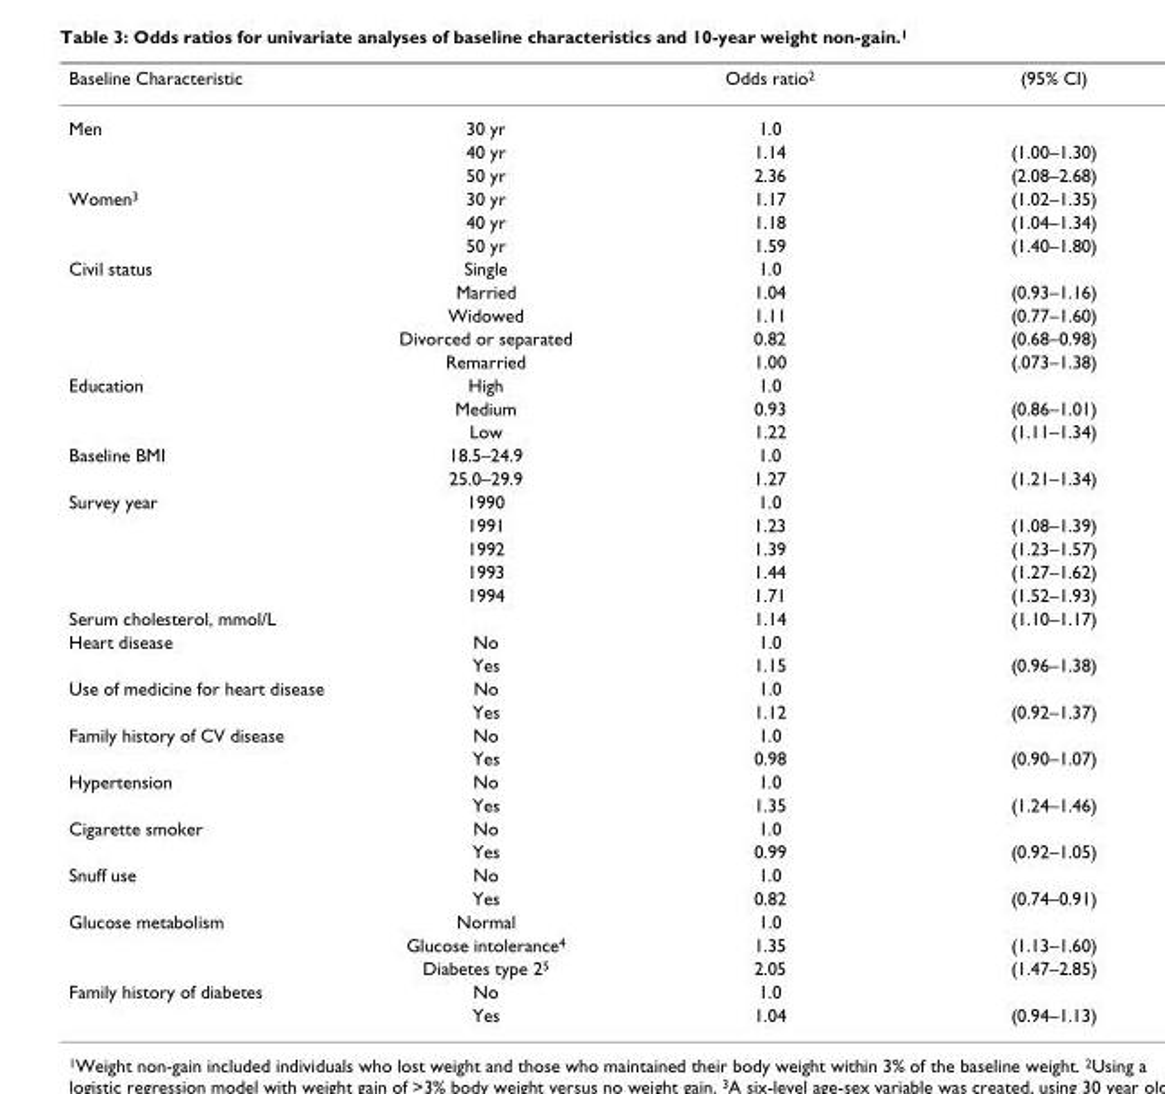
<table><thead><tr><td colspan="2">Baseline Characteristic</td><td rowspan="2">Odds ratio<sup>2</sup> 1.0</td><td rowspan="2">(95% CI)</td></tr><tr><td>Men</td><td>30 yr</td></tr></thead><tbody><tr><td></td><td>40 yr</td><td>1.14</td><td>(1.00–1.30)</td></tr><tr><td></td><td>50 yr</td><td>2.36</td><td>(2.08–2.68)</td></tr><tr><td rowspan="3">Women<sup>3</sup></td><td>30 yr</td><td>1.17</td><td>(1.02–1.35)</td></tr><tr><td>40 yr</td><td>1.18</td><td>(1.04–1.34)</td></tr><tr><td>50 yr</td><td>1.59</td><td>(1.40–1.80)</td></tr><tr><td rowspan="5">Civil status</td><td>Single</td><td>1.0</td><td></td></tr><tr><td>Married</td><td>1.04</td><td>(0.93–1.16)</td></tr><tr><td>Widowed</td><td>1.11</td><td>(0.77–1.60)</td></tr><tr><td>Divorced or separated</td><td>0.82</td><td>(0.68–0.98)</td></tr><tr><td>Remarried</td><td>1.00</td><td>(.073–1.38)</td></tr><tr><td rowspan="3">Education</td><td>High</td><td>1.0</td><td></td></tr><tr><td>Medium</td><td>0.93</td><td>(0.86–1.01)</td></tr><tr><td>Low</td><td>1.22</td><td>(1.11–1.34)</td></tr><tr><td rowspan="2">Baseline BMI</td><td>18.5–24.9</td><td>1.0</td><td></td></tr><tr><td>25.0–29.9</td><td>1.27</td><td>(1.21–1.34)</td></tr><tr><td rowspan="5">Survey year</td><td>1990</td><td>1.0</td><td></td></tr><tr><td>1991</td><td>1.23</td><td>(1.08–1.39)</td></tr><tr><td>1992</td><td>1.39</td><td>(1.23–1.57)</td></tr><tr><td>1993</td><td>1.44</td><td>(1.27–1.62)</td></tr><tr><td>1994</td><td>1.71</td><td>(1.52–1.93)</td></tr><tr><td>Serum cholesterol, mmol/L</td><td></td><td>1.14</td><td>(1.10–1.17)</td></tr><tr><td rowspan="2">Heart disease</td><td>No</td><td>1.0</td><td></td></tr><tr><td>Yes</td><td>1.15</td><td>(0.96–1.38)</td></tr><tr><td rowspan="2">Use of medicine for heart disease</td><td>No</td><td>1.0</td><td></td></tr><tr><td>Yes</td><td>1.12</td><td>(0.92–1.37)</td></tr><tr><td rowspan="2">Family history of CV disease</td><td>No</td><td>1.0</td><td></td></tr><tr><td>Yes</td><td>0.98</td><td>(0.90–1.07)</td></tr><tr><td rowspan="2">Hypertension</td><td>No</td><td>1.0</td><td></td></tr><tr><td>Yes</td><td>1.35</td><td>(1.24–1.46)</td></tr><tr><td rowspan="2">Cigarette smoker</td><td>No</td><td>1.0</td><td></td></tr><tr><td>Yes</td><td>0.99</td><td>(0.92–1.05)</td></tr><tr><td rowspan="2">Snuff use</td><td>No</td><td>1.0</td><td></td></tr><tr><td>Yes</td><td>0.82</td><td>(0.74–0.91)</td></tr><tr><td rowspan="3">Glucose metabolism</td><td>Normal</td><td>1.0</td><td></td></tr><tr><td>Glucose intolerance<sup>4</sup></td><td>1.35</td><td>(1.13–1.60)</td></tr><tr><td>Diabetes type 2<sup>5</sup></td><td>2.05</td><td>(1.47–2.85)</td></tr><tr><td rowspan="2">Family history of diabetes</td><td>No</td><td>1.0</td><td></td></tr><tr><td>Yes</td><td>1.04</td><td>(0.94–1.13)</td></tr></tbody></table>